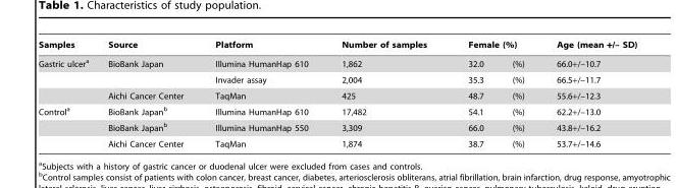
<table><thead><tr><td rowspan="2">Samples Gastric ulcer<sup>a</sup></td><td rowspan="2">Source BioBank Japan</td><td rowspan="2">Platform Illumina HumanHap 610</td><td rowspan="2">Number of samples 1,862</td><td colspan="2">Female (%)</td><td rowspan="2">Age (mean +/– SD) 66.0+/–10.7</td></tr><tr><td>32.0</td><td>(%)</td></tr></thead><tbody><tr><td></td><td></td><td>Invader assay</td><td>2,004</td><td>35.3</td><td>(%)</td><td>66.5+/–11.7</td></tr><tr><td></td><td>Aichi Cancer Center</td><td>TaqMan</td><td>425</td><td>48.7</td><td>(%)</td><td>55.6+/–12.3</td></tr><tr><td rowspan="3">Control<sup>a</sup></td><td>BioBank Japan<sup>b</sup></td><td>Illumina HumanHap 610</td><td>17,482</td><td>54.1</td><td>(%)</td><td>62.2+/–13.0</td></tr><tr><td>BioBank Japan<sup>b</sup></td><td>Illumina HumanHap 550</td><td>3,309</td><td>66.0</td><td>(%)</td><td>43.8+/–16.2</td></tr><tr><td>Aichi Cancer Center</td><td>TaqMan</td><td>1,874</td><td>38.7</td><td>(%)</td><td>53.7+/–14.6</td></tr></tbody></table>